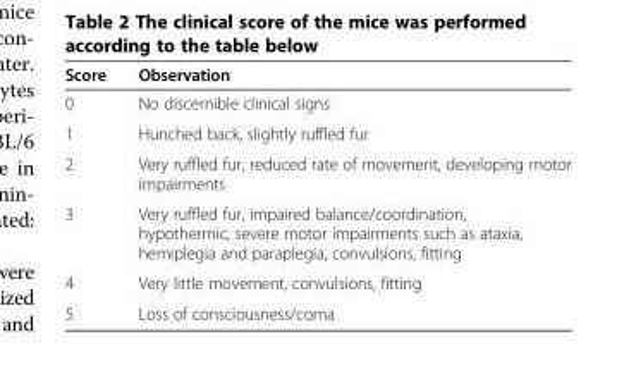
<table><thead><tr><td>Score</td><td>Observation</td></tr></thead><tbody><tr><td>0</td><td>No discernible clinical signs</td></tr><tr><td>1</td><td>Hunched back, slightly ruffled fur</td></tr><tr><td>2</td><td>Very ruffled fur, reduced rate of movement, developing motor impairments</td></tr><tr><td>3</td><td>Very ruffled fur, impaired balance/coordination, hypothermic, severe motor impairments such as ataxia, hemiplegia and paraplegia, convulsions, fitting</td></tr><tr><td>4</td><td>Very little movement, convulsions, fitting</td></tr><tr><td>5</td><td>Loss of consciousness/coma</td></tr></tbody></table>